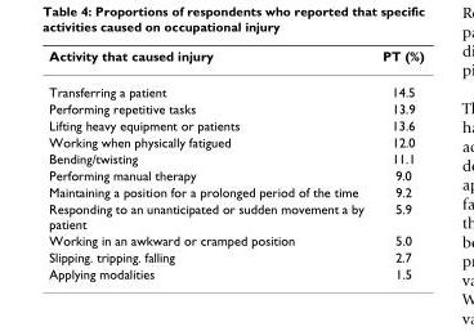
<table><thead><tr><td>Activity that caused injury</td><td>PT (%)</td></tr></thead><tbody><tr><td>Transferring a patient</td><td>14.5</td></tr><tr><td>Performing repetitive tasks</td><td>13.9</td></tr><tr><td>Lifting heavy equipment or patients</td><td>13.6</td></tr><tr><td>Working when physically fatigued</td><td>12.0</td></tr><tr><td>Bending/twisting</td><td>11.1</td></tr><tr><td>Performing manual therapy</td><td>9.0</td></tr><tr><td>Maintaining a position for a prolonged period of the time</td><td>9.2</td></tr><tr><td>Responding to an unanticipated or sudden movement a by patient</td><td>5.9</td></tr><tr><td>Working in an awkward or cramped position</td><td>5.0</td></tr><tr><td>Slipping. tripping. falling</td><td>2.7</td></tr><tr><td>Applying modalities</td><td>1.5</td></tr></tbody></table>